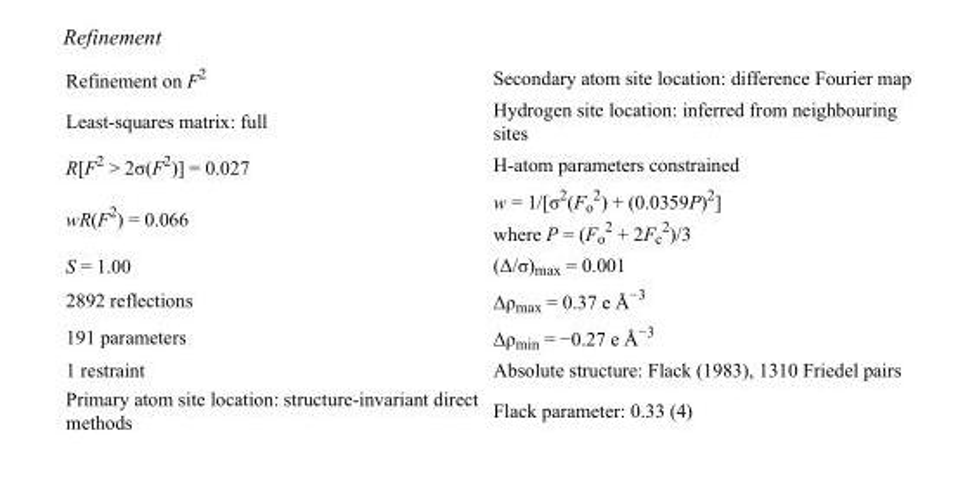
<table><tbody><tr><td>Refinement on F<sup>2</sup></td><td>Secondary atom site location: difference Fourier map</td></tr><tr><td>Least-squares matrix: full</td><td>Hydrogen site location: inferred from neighbouring sites</td></tr><tr><td>R[F<sup>2</sup> &gt; 2σ(F<sup>2</sup>)] = 0.027</td><td>H-atom parameters constrained</td></tr><tr><td>wR(F<sup>2</sup>) = 0.066</td><td>w = 1/[σ<sup>2</sup>(F<sub>o</sub> <sup>2</sup>) + (0.0359P)<sup>2</sup>] where P = (F<sub>o</sub> <sup>2</sup> + 2F<sub>c</sub> <sup>2</sup>)/3</td></tr><tr><td>S = 1.00</td><td>(Δ/σ)<sub>max</sub> = 0.001</td></tr><tr><td>2892 reflections</td><td>Δρ<sub>max</sub> = 0.37 e Å<sup>−3</sup></td></tr><tr><td>191 parameters</td><td>Δρ<sub>min</sub> = −0.27 e Å<sup>−3</sup></td></tr><tr><td>1 restraint</td><td>Absolute structure: Flack (1983), 1310 Friedel pairs</td></tr><tr><td>Primary atom site location: structure-invariant direct methods</td><td>Flack parameter: 0.33 (4)</td></tr></tbody></table>